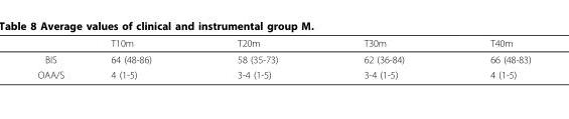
<table><thead><tr><td></td><td>T10m</td><td>T20m</td><td>T30m</td><td>T40m</td></tr></thead><tbody><tr><td>BIS</td><td>64 (48-86)</td><td>58 (35-73)</td><td>62 (36-84)</td><td>66 (48-83)</td></tr><tr><td>OAA/S</td><td>4 (1-5)</td><td>3-4 (1-5)</td><td>3-4 (1-5)</td><td>4 (1-5)</td></tr></tbody></table>